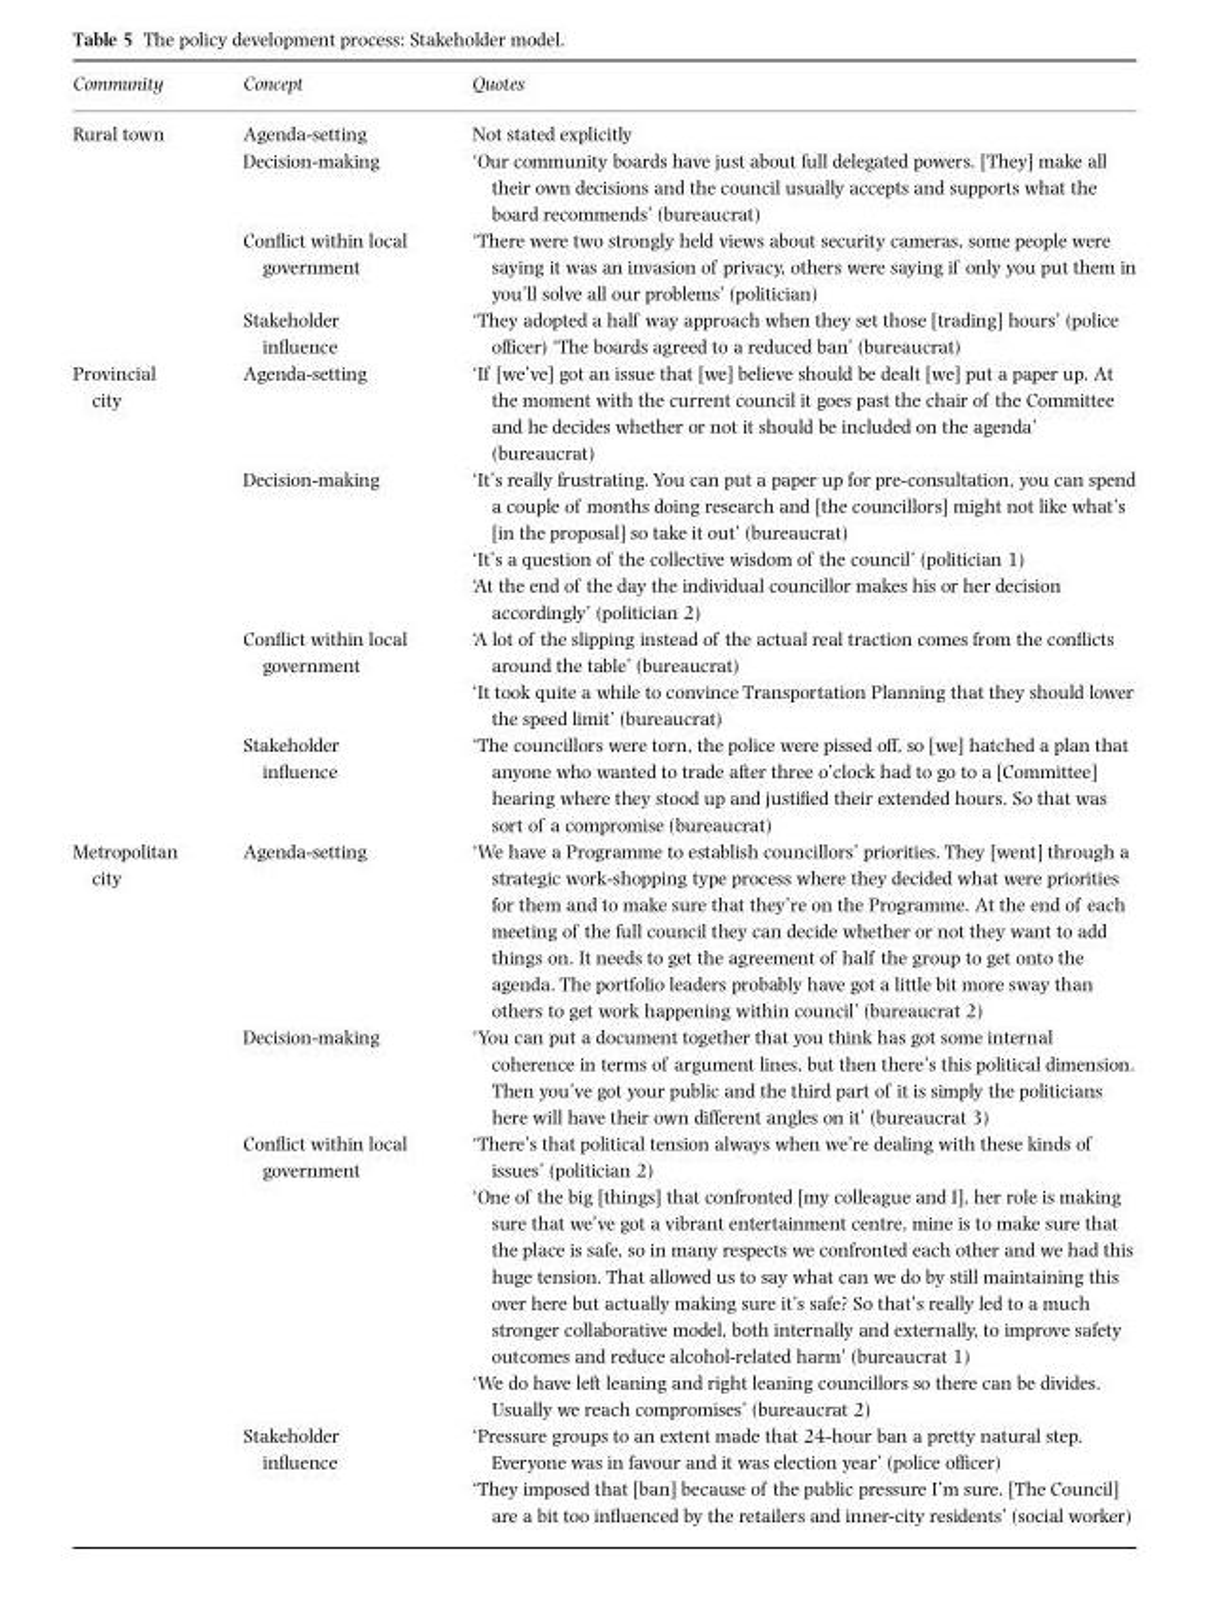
<table><thead><tr><td>Community</td><td>Concept</td><td>Quotes</td></tr></thead><tbody><tr><td rowspan="4">Rural town</td><td>Agenda-setting</td><td>Not stated explicitly</td></tr><tr><td>Decision-making</td><td>‘Our community boards have just about full delegated powers. [They] make all their own decisions and the council usually accepts and supports what the board recommends’ (bureaucrat)</td></tr><tr><td>Conflict within local government</td><td>‘There were two strongly held views about security cameras, some people were saying it was an invasion of privacy, others were saying if only you put them in you’ll solve all our problems’ (politician)</td></tr><tr><td>Stakeholder influence</td><td>‘They adopted a half way approach when they set those [trading] hours’ (police officer) ‘The boards agreed to a reduced ban’ (bureaucrat)</td></tr><tr><td rowspan="7">Provincial city</td><td>Agenda-setting</td><td>‘If [we’ve] got an issue that [we] believe should be dealt [we] put a paper up. At the moment with the current council it goes past the chair of the Committee and he decides whether or not it should be included on the agenda’ (bureaucrat)</td></tr><tr><td>Decision-making</td><td>‘It’s really frustrating. You can put a paper up for pre-consultation, you can spend a couple of months doing research and [the councillors] might not like what’s [in the proposal] so take it out’ (bureaucrat)</td></tr><tr><td></td><td>‘It’s a question of the collective wisdom of the council’ (politician 1)</td></tr><tr><td></td><td>‘At the end of the day the individual councillor makes his or her decision accordingly’ (politician 2)</td></tr><tr><td>Conflict within local government</td><td>‘A lot of the slipping instead of the actual real traction comes from the conflicts around the table’ (bureaucrat)</td></tr><tr><td></td><td>‘It took quite a while to convince Transportation Planning that they should lower the speed limit’ (bureaucrat)</td></tr><tr><td>Stakeholder influence</td><td>‘The councillors were torn, the police were pissed off, so [we] hatched a plan that anyone who wanted to trade after three o’clock had to go to a [Committee] hearing where they stood up and justified their extended hours. So that was sort of a compromise (bureaucrat)</td></tr><tr><td rowspan="7">Metropolitan city</td><td>Agenda-setting</td><td>‘We have a Programme to establish councillors’ priorities. They [went] through a strategic work-shopping type process where they decided what were priorities for them and to make sure that they’re on the Programme. At the end of each meeting of the full council they can decide whether or not they want to add things on. It needs to get the agreement of half the group to get onto the agenda. The portfolio leaders probably have got a little bit more sway than others to get work happening within council’ (bureaucrat 2)</td></tr><tr><td>Decision-making</td><td>‘You can put a document together that you think has got some internal coherence in terms of argument lines, but then there’s this political dimension. Then you’ve got your public and the third part of it is simply the politicians here will have their own different angles on it’ (bureaucrat 3)</td></tr><tr><td>Conflict within local government</td><td>‘There’s that political tension always when we’re dealing with these kinds of issues’ (politician 2)</td></tr><tr><td></td><td>‘One of the big [things] that confronted [my colleague and I], her role is making sure that we’ve got a vibrant entertainment centre, mine is to make sure that the place is safe, so in many respects we confronted each other and we had this huge tension. That allowed us to say what can we do by still maintaining this over here but actually making sure it’s safe? So that’s really led to a much stronger collaborative model, both internally and externally, to improve safety outcomes and reduce alcohol-related harm’ (bureaucrat 1)</td></tr><tr><td></td><td>‘We do have left leaning and right leaning councillors so there can be divides. Usually we reach compromises’ (bureaucrat 2)</td></tr><tr><td>Stakeholder influence</td><td>‘Pressure groups to an extent made that 24-hour ban a pretty natural step. Everyone was in favour and it was election year’ (police officer)</td></tr><tr><td></td><td>‘They imposed that [ban] because of the public pressure I’m sure. [The Council] are a bit too influenced by the retailers and inner-city residents’ (social worker)</td></tr></tbody></table>